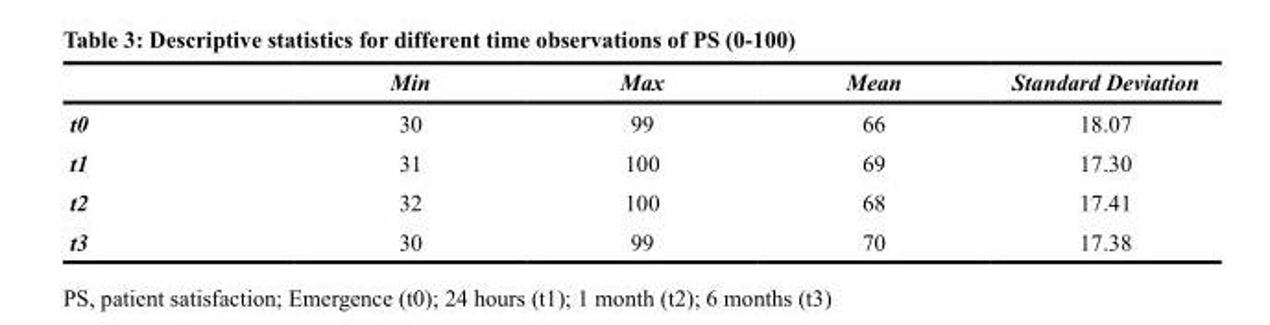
<table><thead><tr><td></td><td>Min</td><td>Max</td><td>Mean</td><td>Standard Deviation</td></tr></thead><tbody><tr><td>t0</td><td>30</td><td>99</td><td>66</td><td>18.07</td></tr><tr><td>t1</td><td>31</td><td>100</td><td>69</td><td>17.30</td></tr><tr><td>t2</td><td>32</td><td>100</td><td>68</td><td>17.41</td></tr><tr><td>t3</td><td>30</td><td>99</td><td>70</td><td>17.38</td></tr></tbody></table>